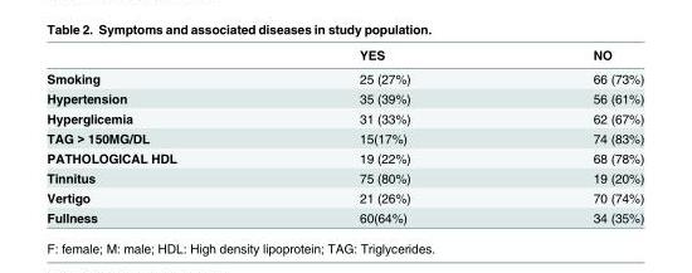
<table><thead><tr><td></td><td>YES</td><td>NO</td></tr></thead><tbody><tr><td>Smoking</td><td>25 (27%)</td><td>66 (73%)</td></tr><tr><td>Hypertension</td><td>35 (39%)</td><td>56 (61%)</td></tr><tr><td>Hyperglicemia</td><td>31 (33%)</td><td>62 (67%)</td></tr><tr><td>TAG &gt; 150MG/DL</td><td>15(17%)</td><td>74 (83%)</td></tr><tr><td>PATHOLOGICAL HDL</td><td>19 (22%)</td><td>68 (78%)</td></tr><tr><td>Tinnitus</td><td>75 (80%)</td><td>19 (20%)</td></tr><tr><td>Vertigo</td><td>21 (26%)</td><td>70 (74%)</td></tr><tr><td>Fullness</td><td>60(64%)</td><td>34 (35%)</td></tr></tbody></table>